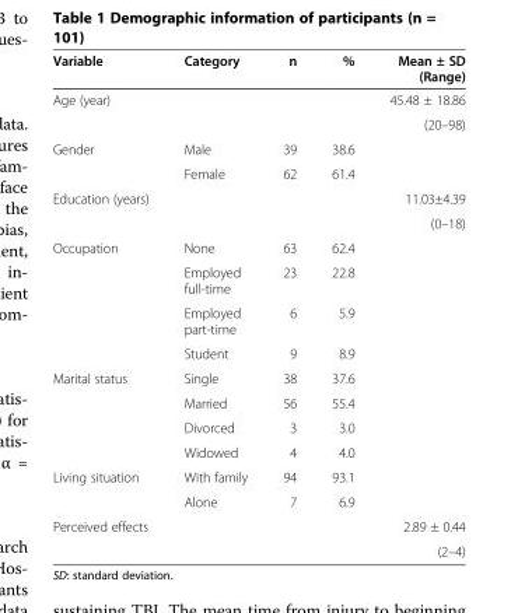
<table><thead><tr><td>Variable</td><td>Category</td><td>n</td><td>%</td><td>Mean ± SD (Range)</td></tr></thead><tbody><tr><td rowspan="2">Age (year)</td><td></td><td></td><td></td><td>45.48 ± 18.86</td></tr><tr><td></td><td></td><td></td><td>(20–98)</td></tr><tr><td rowspan="2">Gender</td><td>Male</td><td>39</td><td>38.6</td><td></td></tr><tr><td>Female</td><td>62</td><td>61.4</td><td></td></tr><tr><td rowspan="2">Education (years)</td><td></td><td></td><td></td><td>11.03±4.39</td></tr><tr><td></td><td></td><td></td><td>(0–18)</td></tr><tr><td rowspan="4">Occupation</td><td>None</td><td>63</td><td>62.4</td><td></td></tr><tr><td>Employed full-time</td><td>23</td><td>22.8</td><td></td></tr><tr><td>Employed part-time</td><td>6</td><td>5.9</td><td></td></tr><tr><td>Student</td><td>9</td><td>8.9</td><td></td></tr><tr><td rowspan="4">Marital status</td><td>Single</td><td>38</td><td>37.6</td><td></td></tr><tr><td>Married</td><td>56</td><td>55.4</td><td></td></tr><tr><td>Divorced</td><td>3</td><td>3.0</td><td></td></tr><tr><td>Widowed</td><td>4</td><td>4.0</td><td></td></tr><tr><td rowspan="2">Living situation</td><td>With family</td><td>94</td><td>93.1</td><td></td></tr><tr><td>Alone</td><td>7</td><td>6.9</td><td></td></tr><tr><td rowspan="2">Perceived effects</td><td></td><td></td><td></td><td>2.89 ± 0.44</td></tr><tr><td></td><td></td><td></td><td>(2–4)</td></tr></tbody></table>